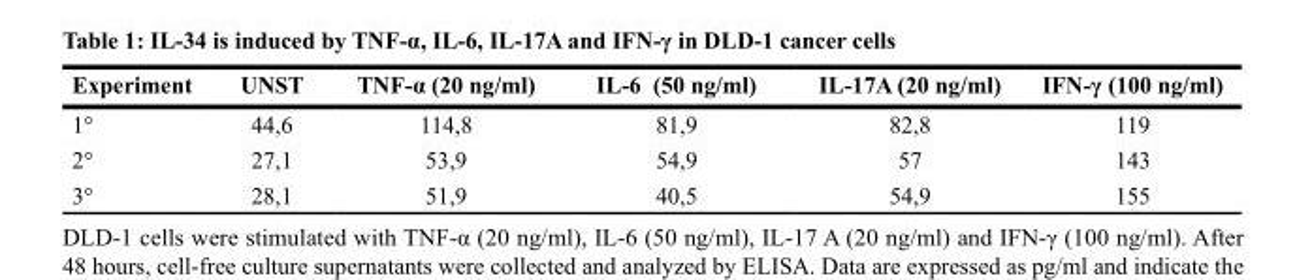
<table><thead><tr><td>Experiment</td><td>UNST</td><td>TNF-α (20 ng/ml)</td><td>IL-6 (50 ng/ml)</td><td>IL-17A (20 ng/ml)</td><td>IFN-γ (100 ng/ml)</td></tr></thead><tbody><tr><td>1°</td><td>44,6</td><td>114,8</td><td>81,9</td><td>82,8</td><td>119</td></tr><tr><td>2°</td><td>27,1</td><td>53,9</td><td>54,9</td><td>57</td><td>143</td></tr><tr><td>3°</td><td>28,1</td><td>51,9</td><td>40,5</td><td>54,9</td><td>155</td></tr></tbody></table>